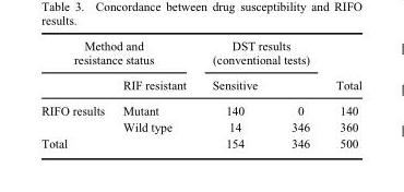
<table><thead><tr><td colspan="2">Method and resistance status</td><td colspan="2">DST results (conventional tests)</td><td rowspan="2">Total</td></tr><tr><td></td><td>RIF resistant</td><td>Sensitive</td><td></td></tr></thead><tbody><tr><td rowspan="2">RIFO results</td><td>Mutant</td><td>140</td><td>0</td><td>140</td></tr><tr><td>Wild type</td><td>14</td><td>346</td><td>360</td></tr><tr><td>Total</td><td></td><td>154</td><td>346</td><td>500</td></tr></tbody></table>